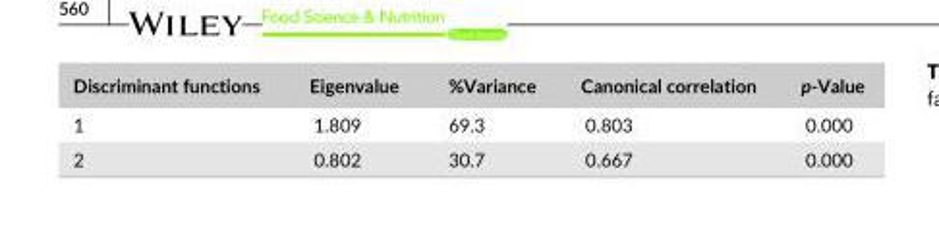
<table><thead><tr><td>Discriminant functions</td><td>Eigenvalue</td><td>%Variance</td><td>Canonical correlation</td><td>p-Value</td></tr></thead><tbody><tr><td>1</td><td>1.809</td><td>69.3</td><td>0.803</td><td>0.000</td></tr><tr><td>2</td><td>0.802</td><td>30.7</td><td>0.667</td><td>0.000</td></tr></tbody></table>